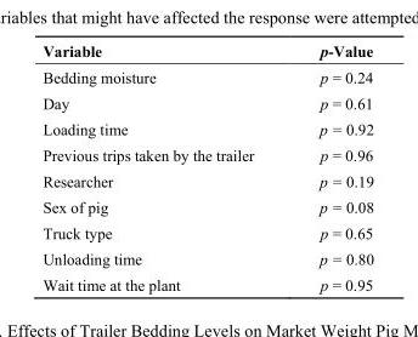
<table><thead><tr><td>Variable</td><td>p-Value</td></tr></thead><tbody><tr><td>Bedding moisture</td><td>p = 0.24</td></tr><tr><td>Day</td><td>p = 0.61</td></tr><tr><td>Loading time</td><td>p = 0.92</td></tr><tr><td>Previous trips taken by the trailer</td><td>p = 0.96</td></tr><tr><td>Researcher</td><td>p = 0.19</td></tr><tr><td>Sex of pig</td><td>p = 0.08</td></tr><tr><td>Truck type</td><td>p = 0.65</td></tr><tr><td>Unloading time</td><td>p = 0.80</td></tr><tr><td>Wait time at the plant</td><td>p = 0.95</td></tr></tbody></table>